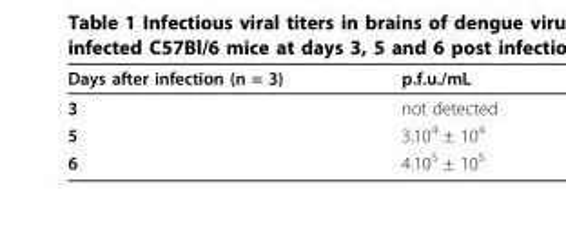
<table><tbody><tr><td>Days after infection (n = 3)</td><td>p.f.u./mL</td></tr><tr><td>3</td><td>not detected</td></tr><tr><td>5</td><td>3.10<sup>4</sup> ± 10<sup>4</sup></td></tr><tr><td>6</td><td>4.10<sup>5</sup> ± 10<sup>5</sup></td></tr></tbody></table>